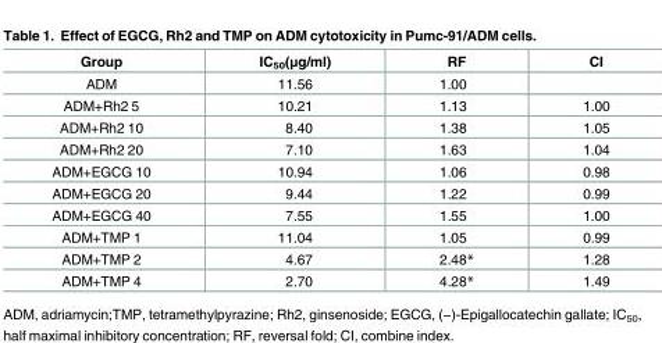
<table><thead><tr><td>Group</td><td>IC<sub>50</sub>(μg/ml)</td><td>RF</td><td>CI</td></tr></thead><tbody><tr><td>ADM</td><td>11.56</td><td>1.00</td><td></td></tr><tr><td>ADM+Rh2 5</td><td>10.21</td><td>1.13</td><td>1.00</td></tr><tr><td>ADM+Rh2 10</td><td>8.40</td><td>1.38</td><td>1.05</td></tr><tr><td>ADM+Rh2 20</td><td>7.10</td><td>1.63</td><td>1.04</td></tr><tr><td>ADM+EGCG 10</td><td>10.94</td><td>1.06</td><td>0.98</td></tr><tr><td>ADM+EGCG 20</td><td>9.44</td><td>1.22</td><td>0.99</td></tr><tr><td>ADM+EGCG 40</td><td>7.55</td><td>1.55</td><td>1.00</td></tr><tr><td>ADM+TMP 1</td><td>11.04</td><td>1.05</td><td>0.99</td></tr><tr><td>ADM+TMP 2</td><td>4.67</td><td>2.48*</td><td>1.28</td></tr><tr><td>ADM+TMP 4</td><td>2.70</td><td>4.28*</td><td>1.49</td></tr></tbody></table>